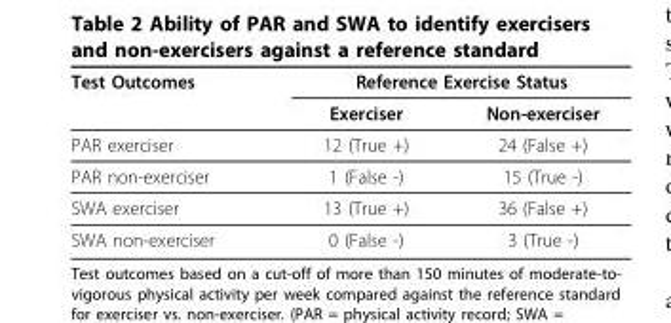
<table><thead><tr><td rowspan="2">Test Outcomes</td><td colspan="2">Reference Exercise Status</td></tr><tr><td>Exerciser</td><td>Non-exerciser</td></tr></thead><tbody><tr><td>PAR exerciser</td><td>12 (True +)</td><td>24 (False +)</td></tr><tr><td>PAR non-exerciser</td><td>1 (False -)</td><td>15 (True -)</td></tr><tr><td>SWA exerciser</td><td>13 (True +)</td><td>36 (False +)</td></tr><tr><td>SWA non-exerciser</td><td>0 (False -)</td><td>3 (True -)</td></tr></tbody></table>